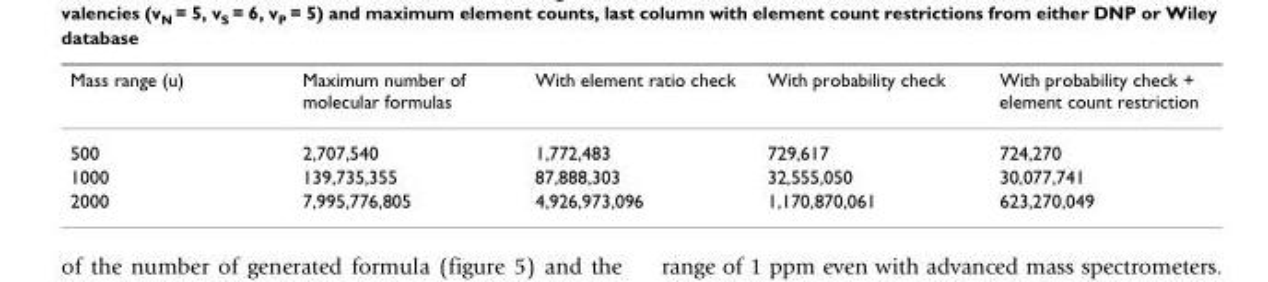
<table><thead><tr><td>Mass range (u)</td><td>Maximum number of molecular formulas</td><td>With element ratio check</td><td>With probability check</td><td>With probability check + element count restriction</td></tr></thead><tbody><tr><td>500</td><td>2,707,540</td><td>1,772,483</td><td>729,617</td><td>724,270</td></tr><tr><td>1000</td><td>139,735,355</td><td>87,888,303</td><td>32,555,050</td><td>30,077,741</td></tr><tr><td>2000</td><td>7,995,776,805</td><td>4,926,973,096</td><td>1,170,870,061</td><td>623,270,049</td></tr></tbody></table>